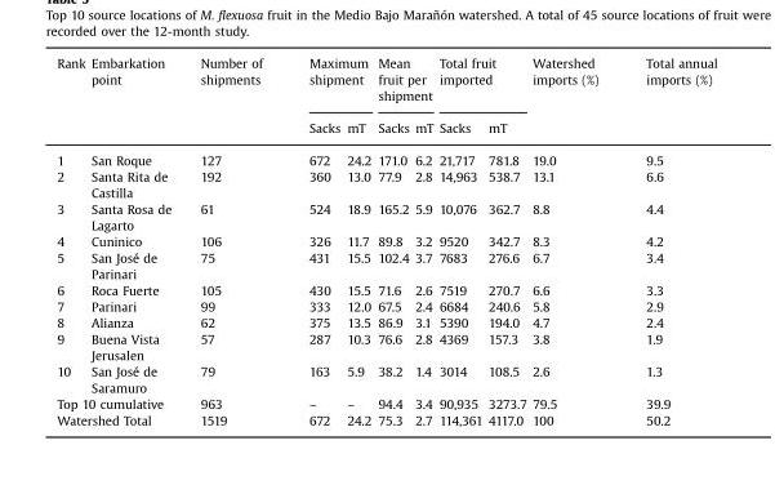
<table><thead><tr><td rowspan="2">Rank</td><td rowspan="2">Embarkation point</td><td rowspan="2">Number of shipments</td><td colspan="2">Maximum shipment</td><td colspan="2">Mean fruit per shipment</td><td colspan="2">Total fruit imported</td><td rowspan="2">Watershed imports (%)</td><td rowspan="2">Total annual imports (%)</td></tr><tr><td>Sacks</td><td>mT</td><td>Sacks</td><td>mT</td><td>Sacks</td><td>mT</td></tr></thead><tbody><tr><td>1</td><td>San Roque</td><td>127</td><td>672</td><td>24.2</td><td>171.0</td><td>6.2</td><td>21,717</td><td>781.8</td><td>19.0</td><td>9.5</td></tr><tr><td>2</td><td>Santa Rita de Castilla</td><td>192</td><td>360</td><td>13.0</td><td>77.9</td><td>2.8</td><td>14,963</td><td>538.7</td><td>13.1</td><td>6.6</td></tr><tr><td>3</td><td>Santa Rosa de Lagarto</td><td>61</td><td>524</td><td>18.9</td><td>165.2</td><td>5.9</td><td>10,076</td><td>362.7</td><td>8.8</td><td>4.4</td></tr><tr><td>4</td><td>Cuninico</td><td>106</td><td>326</td><td>11.7</td><td>89.8</td><td>3.2</td><td>9520</td><td>342.7</td><td>8.3</td><td>4.2</td></tr><tr><td>5</td><td>San José de Parinari</td><td>75</td><td>431</td><td>15.5</td><td>102.4</td><td>3.7</td><td>7683</td><td>276.6</td><td>6.7</td><td>3.4</td></tr><tr><td>6</td><td>Roca Fuerte</td><td>105</td><td>430</td><td>15.5</td><td>71.6</td><td>2.6</td><td>7519</td><td>270.7</td><td>6.6</td><td>3.3</td></tr><tr><td>7</td><td>Parinari</td><td>99</td><td>333</td><td>12.0</td><td>67.5</td><td>2.4</td><td>6684</td><td>240.6</td><td>5.8</td><td>2.9</td></tr><tr><td>8</td><td>Alianza</td><td>62</td><td>375</td><td>13.5</td><td>86.9</td><td>3.1</td><td>5390</td><td>194.0</td><td>4.7</td><td>2.4</td></tr><tr><td>9</td><td>Buena Vista Jerusalen</td><td>57</td><td>287</td><td>10.3</td><td>76.6</td><td>2.8</td><td>4369</td><td>157.3</td><td>3.8</td><td>1.9</td></tr><tr><td>10</td><td>San José de Saramuro</td><td>79</td><td>163</td><td>5.9</td><td>38.2</td><td>1.4</td><td>3014</td><td>108.5</td><td>2.6</td><td>1.3</td></tr><tr><td colspan="2">Top 10 cumulative</td><td>963</td><td>–</td><td>–</td><td>94.4</td><td>3.4</td><td>90,935</td><td>3273.7</td><td>79.5</td><td>39.9</td></tr><tr><td colspan="2">Watershed Total</td><td>1519</td><td>672</td><td>24.2</td><td>75.3</td><td>2.7</td><td>114,361</td><td>4117.0</td><td>100</td><td>50.2</td></tr></tbody></table>